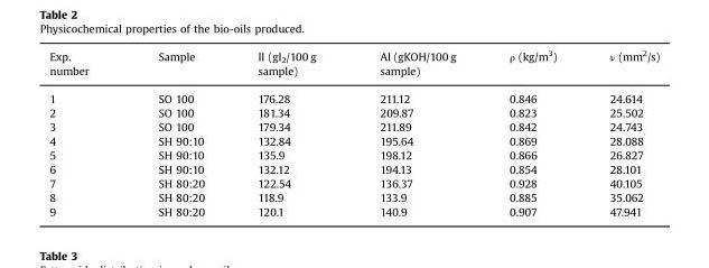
<table><thead><tr><td>Exp. number</td><td>Sample</td><td>II (gI<sub>2</sub>/100 g sample)</td><td>AI (gKOH/100 g sample)</td><td>ρ (kg/m<sup>3</sup>)</td><td>ν (mm<sup>2</sup>/s)</td></tr></thead><tbody><tr><td>1</td><td>SO 100</td><td>176.28</td><td>211.12</td><td>0.846</td><td>24.614</td></tr><tr><td>2</td><td>SO 100</td><td>181.34</td><td>209.87</td><td>0.823</td><td>25.502</td></tr><tr><td>3</td><td>SO 100</td><td>179.34</td><td>211.89</td><td>0.842</td><td>24.743</td></tr><tr><td>4</td><td>SH 90:10</td><td>132.84</td><td>195.64</td><td>0.869</td><td>28.088</td></tr><tr><td>5</td><td>SH 90:10</td><td>135.9</td><td>198.12</td><td>0.866</td><td>26.827</td></tr><tr><td>6</td><td>SH 90:10</td><td>132.12</td><td>194.13</td><td>0.854</td><td>28.101</td></tr><tr><td>7</td><td>SH 80:20</td><td>122.54</td><td>136.37</td><td>0.928</td><td>40.105</td></tr><tr><td>8</td><td>SH 80:20</td><td>118.9</td><td>133.9</td><td>0.885</td><td>35.062</td></tr><tr><td>9</td><td>SH 80:20</td><td>120.1</td><td>140.9</td><td>0.907</td><td>47.941</td></tr></tbody></table>